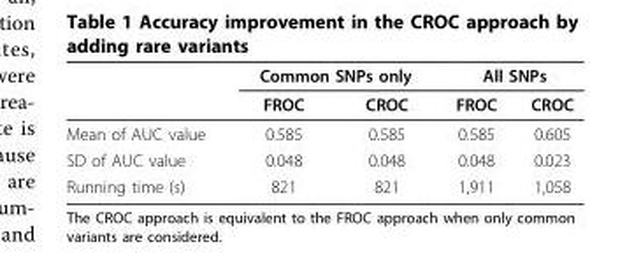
<table><thead><tr><td rowspan="2"></td><td colspan="2">Common SNPs only</td><td colspan="2">All SNPs</td></tr><tr><td>FROC</td><td>CROC</td><td>FROC</td><td>CROC</td></tr></thead><tbody><tr><td>Mean of AUC value</td><td>0.585</td><td>0.585</td><td>0.585</td><td>0.605</td></tr><tr><td>SD of AUC value</td><td>0.048</td><td>0.048</td><td>0.048</td><td>0.023</td></tr><tr><td>Running time (s)</td><td>821</td><td>821</td><td>1,911</td><td>1,058</td></tr></tbody></table>